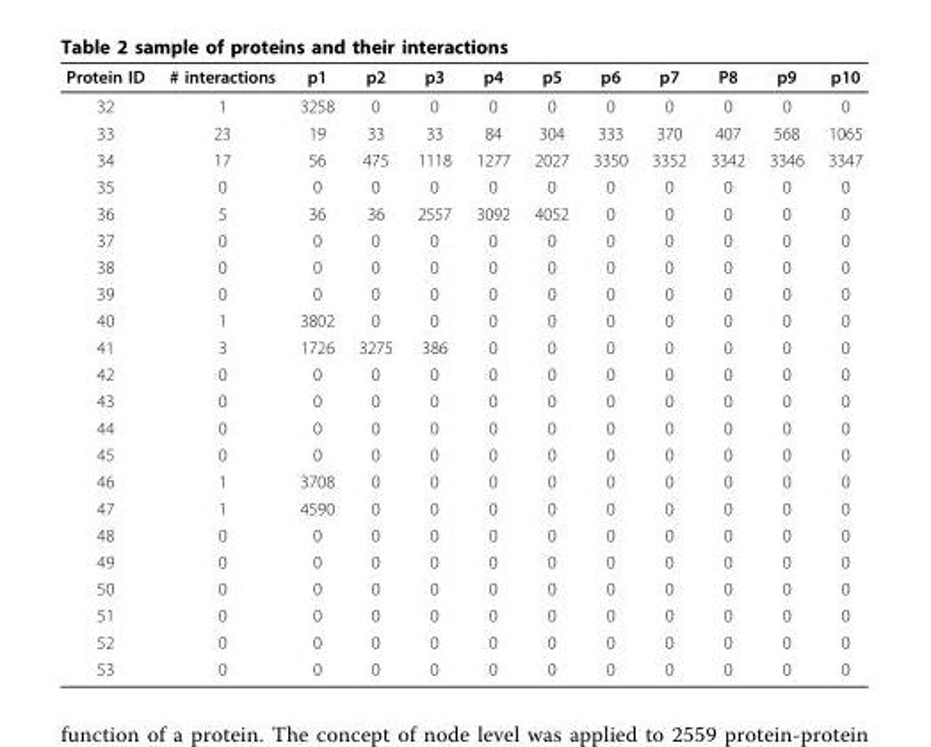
<table><thead><tr><td>Protein ID</td><td># interactions</td><td>p1</td><td>p2</td><td>p3</td><td>p4</td><td>p5</td><td>p6</td><td>p7</td><td>P8</td><td>p9</td><td>p10</td></tr></thead><tbody><tr><td>32</td><td>1</td><td>3258</td><td>0</td><td>0</td><td>0</td><td>0</td><td>0</td><td>0</td><td>0</td><td>0</td><td>0</td></tr><tr><td>33</td><td>23</td><td>19</td><td>33</td><td>33</td><td>84</td><td>304</td><td>333</td><td>370</td><td>407</td><td>568</td><td>1065</td></tr><tr><td>34</td><td>17</td><td>56</td><td>475</td><td>1118</td><td>1277</td><td>2027</td><td>3350</td><td>3352</td><td>3342</td><td>3346</td><td>3347</td></tr><tr><td>35</td><td>0</td><td>0</td><td>0</td><td>0</td><td>0</td><td>0</td><td>0</td><td>0</td><td>0</td><td>0</td><td>0</td></tr><tr><td>36</td><td>5</td><td>36</td><td>36</td><td>2557</td><td>3092</td><td>4052</td><td>0</td><td>0</td><td>0</td><td>0</td><td>0</td></tr><tr><td>37</td><td>0</td><td>0</td><td>0</td><td>0</td><td>0</td><td>0</td><td>0</td><td>0</td><td>0</td><td>0</td><td>0</td></tr><tr><td>38</td><td>0</td><td>0</td><td>0</td><td>0</td><td>0</td><td>0</td><td>0</td><td>0</td><td>0</td><td>0</td><td>0</td></tr><tr><td>39</td><td>0</td><td>0</td><td>0</td><td>0</td><td>0</td><td>0</td><td>0</td><td>0</td><td>0</td><td>0</td><td>0</td></tr><tr><td>40</td><td>1</td><td>3802</td><td>0</td><td>0</td><td>0</td><td>0</td><td>0</td><td>0</td><td>0</td><td>0</td><td>0</td></tr><tr><td>41</td><td>3</td><td>1726</td><td>3275</td><td>386</td><td>0</td><td>0</td><td>0</td><td>0</td><td>0</td><td>0</td><td>0</td></tr><tr><td>42</td><td>0</td><td>0</td><td>0</td><td>0</td><td>0</td><td>0</td><td>0</td><td>0</td><td>0</td><td>0</td><td>0</td></tr><tr><td>43</td><td>0</td><td>0</td><td>0</td><td>0</td><td>0</td><td>0</td><td>0</td><td>0</td><td>0</td><td>0</td><td>0</td></tr><tr><td>44</td><td>0</td><td>0</td><td>0</td><td>0</td><td>0</td><td>0</td><td>0</td><td>0</td><td>0</td><td>0</td><td>0</td></tr><tr><td>45</td><td>0</td><td>0</td><td>0</td><td>0</td><td>0</td><td>0</td><td>0</td><td>0</td><td>0</td><td>0</td><td>0</td></tr><tr><td>46</td><td>1</td><td>3708</td><td>0</td><td>0</td><td>0</td><td>0</td><td>0</td><td>0</td><td>0</td><td>0</td><td>0</td></tr><tr><td>47</td><td>1</td><td>4590</td><td>0</td><td>0</td><td>0</td><td>0</td><td>0</td><td>0</td><td>0</td><td>0</td><td>0</td></tr><tr><td>48</td><td>0</td><td>0</td><td>0</td><td>0</td><td>0</td><td>0</td><td>0</td><td>0</td><td>0</td><td>0</td><td>0</td></tr><tr><td>49</td><td>0</td><td>0</td><td>0</td><td>0</td><td>0</td><td>0</td><td>0</td><td>0</td><td>0</td><td>0</td><td>0</td></tr><tr><td>50</td><td>0</td><td>0</td><td>0</td><td>0</td><td>0</td><td>0</td><td>0</td><td>0</td><td>0</td><td>0</td><td>0</td></tr><tr><td>51</td><td>0</td><td>0</td><td>0</td><td>0</td><td>0</td><td>0</td><td>0</td><td>0</td><td>0</td><td>0</td><td>0</td></tr><tr><td>52</td><td>0</td><td>0</td><td>0</td><td>0</td><td>0</td><td>0</td><td>0</td><td>0</td><td>0</td><td>0</td><td>0</td></tr><tr><td>53</td><td>0</td><td>0</td><td>0</td><td>0</td><td>0</td><td>0</td><td>0</td><td>0</td><td>0</td><td>0</td><td>0</td></tr></tbody></table>